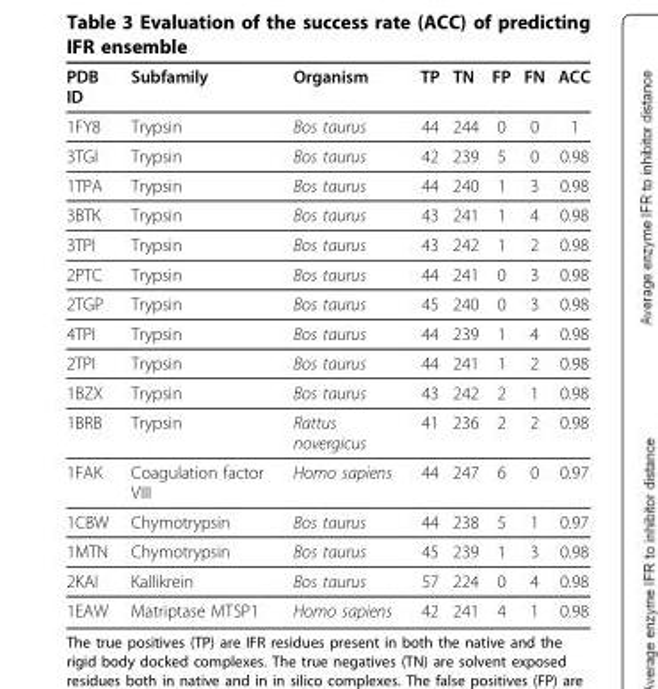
<table><thead><tr><td>PDB ID</td><td>Subfamily</td><td>Organism</td><td>TP</td><td>TN</td><td>FP</td><td>FN</td><td>ACC</td></tr></thead><tbody><tr><td>1FY8</td><td>Trypsin</td><td>Bos taurus</td><td>44</td><td>244</td><td>0</td><td>0</td><td>1</td></tr><tr><td>3TGI</td><td>Trypsin</td><td>Bos taurus</td><td>42</td><td>239</td><td>5</td><td>0</td><td>0.98</td></tr><tr><td>1TPA</td><td>Trypsin</td><td>Bos taurus</td><td>44</td><td>240</td><td>1</td><td>3</td><td>0.98</td></tr><tr><td>3BTK</td><td>Trypsin</td><td>Bos taurus</td><td>43</td><td>241</td><td>1</td><td>4</td><td>0.98</td></tr><tr><td>3TPI</td><td>Trypsin</td><td>Bos taurus</td><td>43</td><td>242</td><td>1</td><td>2</td><td>0.98</td></tr><tr><td>2PTC</td><td>Trypsin</td><td>Bos taurus</td><td>44</td><td>241</td><td>0</td><td>3</td><td>0.98</td></tr><tr><td>2TGP</td><td>Trypsin</td><td>Bos taurus</td><td>45</td><td>240</td><td>0</td><td>3</td><td>0.98</td></tr><tr><td>4TPI</td><td>Trypsin</td><td>Bos taurus</td><td>44</td><td>239</td><td>1</td><td>4</td><td>0.98</td></tr><tr><td>2TPI</td><td>Trypsin</td><td>Bos taurus</td><td>44</td><td>241</td><td>1</td><td>2</td><td>0.98</td></tr><tr><td>1BZX</td><td>Trypsin</td><td>Bos taurus</td><td>43</td><td>242</td><td>2</td><td>1</td><td>0.98</td></tr><tr><td>1BRB</td><td>Trypsin</td><td>Rattus novergicus</td><td>41</td><td>236</td><td>2</td><td>2</td><td>0.98</td></tr><tr><td>1FAK</td><td>Coagulation factor VIII</td><td>Homo sapiens</td><td>44</td><td>247</td><td>6</td><td>0</td><td>0.97</td></tr><tr><td>1CBW</td><td>Chymotrypsin</td><td>Bos taurus</td><td>44</td><td>238</td><td>5</td><td>1</td><td>0.97</td></tr><tr><td>1MTN</td><td>Chymotrypsin</td><td>Bos taurus</td><td>45</td><td>239</td><td>1</td><td>3</td><td>0.98</td></tr><tr><td>2KAI</td><td>Kallikrein</td><td>Bos taurus</td><td>57</td><td>224</td><td>0</td><td>4</td><td>0.98</td></tr><tr><td>1EAW</td><td>Matriptase MTSP1</td><td>Homo sapiens</td><td>42</td><td>241</td><td>4</td><td>1</td><td>0.98</td></tr></tbody></table>